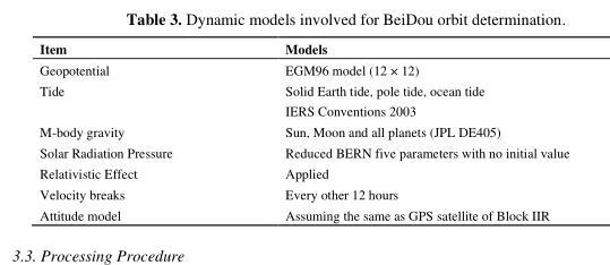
<table><thead><tr><td>Item</td><td>Models</td></tr></thead><tbody><tr><td>Geopotential</td><td>EGM96 model (12 × 12)</td></tr><tr><td rowspan="2">Tide</td><td>Solid Earth tide, pole tide, ocean tide</td></tr><tr><td>IERS Conventions 2003</td></tr><tr><td>M-body gravity</td><td>Sun, Moon and all planets (JPL DE405)</td></tr><tr><td>Solar Radiation Pressure</td><td>Reduced BERN five parameters with no initial value</td></tr><tr><td>Relativistic Effect</td><td>Applied</td></tr><tr><td>Velocity breaks</td><td>Every other 12 hours</td></tr><tr><td>Attitude model</td><td>Assuming the same as GPS satellite of Block IIR</td></tr></tbody></table>